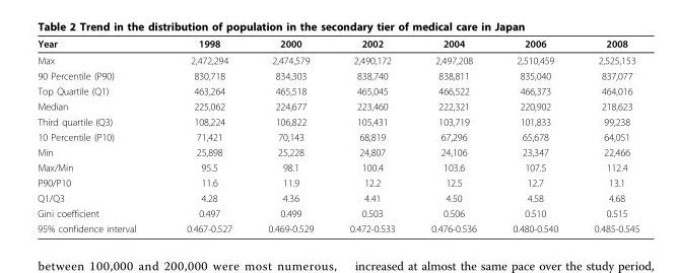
<table><thead><tr><td>Year</td><td>1998</td><td>2000</td><td>2002</td><td>2004</td><td>2006</td><td>2008</td></tr></thead><tbody><tr><td>Max</td><td>2,472,294</td><td>2,474,579</td><td>2,490,172</td><td>2,497,208</td><td>2,510,459</td><td>2,525,153</td></tr><tr><td>90 Percentile (P90)</td><td>830,718</td><td>834,303</td><td>838,740</td><td>838,811</td><td>835,040</td><td>837,077</td></tr><tr><td>Top Quartile (Q1)</td><td>463,264</td><td>465,518</td><td>465,045</td><td>466,522</td><td>466,373</td><td>464,016</td></tr><tr><td>Median</td><td>225,062</td><td>224,677</td><td>223,460</td><td>222,321</td><td>220,902</td><td>218,623</td></tr><tr><td>Third quartile (Q3)</td><td>108,224</td><td>106,822</td><td>105,431</td><td>103,719</td><td>101,833</td><td>99,238</td></tr><tr><td>10 Percentile (P10)</td><td>71,421</td><td>70,143</td><td>68,819</td><td>67,296</td><td>65,678</td><td>64,051</td></tr><tr><td>Min</td><td>25,898</td><td>25,228</td><td>24,807</td><td>24,106</td><td>23,347</td><td>22,466</td></tr><tr><td>Max/Min</td><td>95.5</td><td>98.1</td><td>100.4</td><td>103.6</td><td>107.5</td><td>112.4</td></tr><tr><td>P90/P10</td><td>11.6</td><td>11.9</td><td>12.2</td><td>12.5</td><td>12.7</td><td>13.1</td></tr><tr><td>Q1/Q3</td><td>4.28</td><td>4.36</td><td>4.41</td><td>4.50</td><td>4.58</td><td>4.68</td></tr><tr><td>Gini coefficient</td><td>0.497</td><td>0.499</td><td>0.503</td><td>0.506</td><td>0.510</td><td>0.515</td></tr><tr><td>95% confidence interval</td><td>0.467-0.527</td><td>0.469-0.529</td><td>0.472-0.533</td><td>0.476-0.536</td><td>0.480-0.540</td><td>0.485-0.545</td></tr></tbody></table>